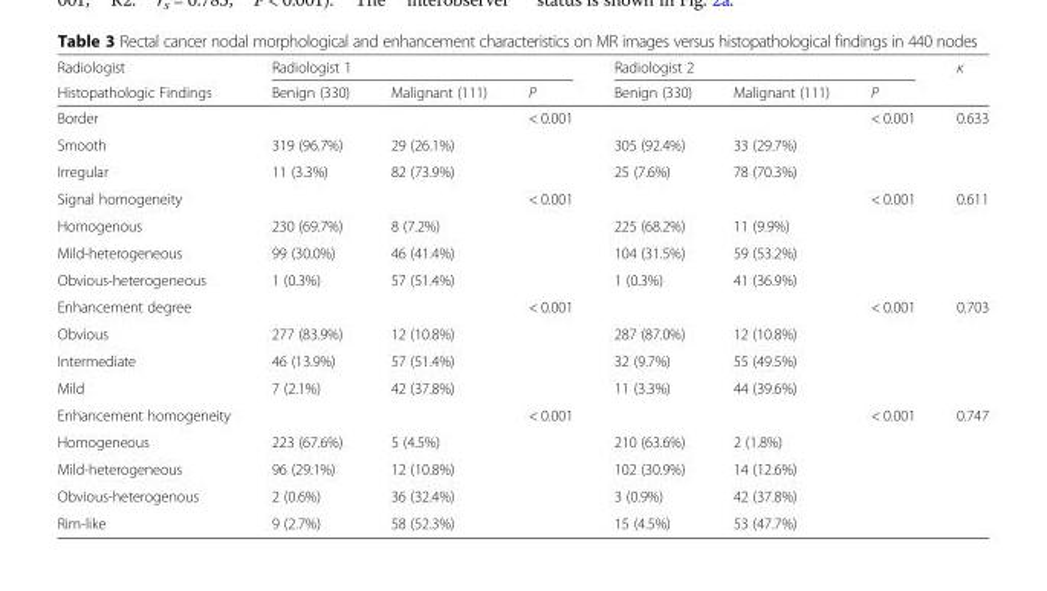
<table><thead><tr><td rowspan="2">Radiologist Histopathologic Findings</td><td colspan="3">Radiologist 1</td><td colspan="3">Radiologist 2</td><td rowspan="2">κ</td></tr><tr><td>Benign (330)</td><td>Malignant (111)</td><td>P</td><td>Benign (330)</td><td>Malignant (111)</td><td>P</td></tr></thead><tbody><tr><td>Border</td><td></td><td></td><td>&lt; 0.001</td><td></td><td></td><td>&lt; 0.001</td><td>0.633</td></tr><tr><td>Smooth</td><td>319 (96.7%)</td><td>29 (26.1%)</td><td></td><td>305 (92.4%)</td><td>33 (29.7%)</td><td></td><td></td></tr><tr><td>Irregular</td><td>11 (3.3%)</td><td>82 (73.9%)</td><td></td><td>25 (7.6%)</td><td>78 (70.3%)</td><td></td><td></td></tr><tr><td>Signal homogeneity</td><td></td><td></td><td>&lt; 0.001</td><td></td><td></td><td>&lt; 0.001</td><td>0.611</td></tr><tr><td>Homogenous</td><td>230 (69.7%)</td><td>8 (7.2%)</td><td></td><td>225 (68.2%)</td><td>11 (9.9%)</td><td></td><td></td></tr><tr><td>Mild-heterogeneous</td><td>99 (30.0%)</td><td>46 (41.4%)</td><td></td><td>104 (31.5%)</td><td>59 (53.2%)</td><td></td><td></td></tr><tr><td>Obvious-heterogeneous</td><td>1 (0.3%)</td><td>57 (51.4%)</td><td></td><td>1 (0.3%)</td><td>41 (36.9%)</td><td></td><td></td></tr><tr><td>Enhancement degree</td><td></td><td></td><td>&lt; 0.001</td><td></td><td></td><td>&lt; 0.001</td><td>0.703</td></tr><tr><td>Obvious</td><td>277 (83.9%)</td><td>12 (10.8%)</td><td></td><td>287 (87.0%)</td><td>12 (10.8%)</td><td></td><td></td></tr><tr><td>Intermediate</td><td>46 (13.9%)</td><td>57 (51.4%)</td><td></td><td>32 (9.7%)</td><td>55 (49.5%)</td><td></td><td></td></tr><tr><td>Mild</td><td>7 (2.1%)</td><td>42 (37.8%)</td><td></td><td>11 (3.3%)</td><td>44 (39.6%)</td><td></td><td></td></tr><tr><td>Enhancement homogeneity</td><td></td><td></td><td>&lt; 0.001</td><td></td><td></td><td>&lt; 0.001</td><td>0.747</td></tr><tr><td>Homogeneous</td><td>223 (67.6%)</td><td>5 (4.5%)</td><td></td><td>210 (63.6%)</td><td>2 (1.8%)</td><td></td><td></td></tr><tr><td>Mild-heterogeneous</td><td>96 (29.1%)</td><td>12 (10.8%)</td><td></td><td>102 (30.9%)</td><td>14 (12.6%)</td><td></td><td></td></tr><tr><td>Obvious-heterogenous</td><td>2 (0.6%)</td><td>36 (32.4%)</td><td></td><td>3 (0.9%)</td><td>42 (37.8%)</td><td></td><td></td></tr><tr><td>Rim-like</td><td>9 (2.7%)</td><td>58 (52.3%)</td><td></td><td>15 (4.5%)</td><td>53 (47.7%)</td><td></td><td></td></tr></tbody></table>